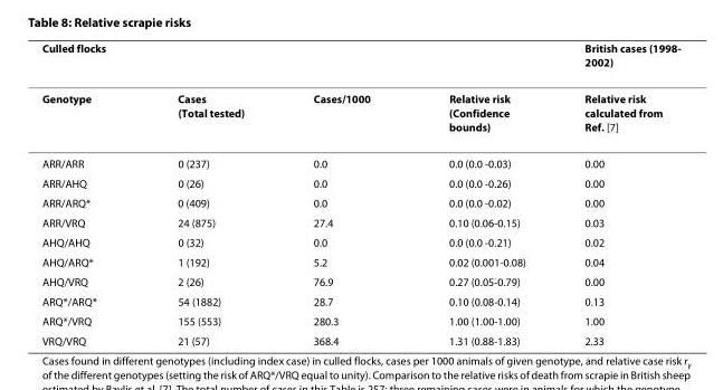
<table><thead><tr><td colspan="4">Culled flocks</td><td rowspan="2">British cases (1998- 2002) Relative risk calculated from Ref. [7]</td></tr><tr><td>Genotype</td><td>Cases (Total tested)</td><td>Cases/1000</td><td>Relative risk (Confidence bounds)</td></tr></thead><tbody><tr><td>ARR/ARR</td><td>0 (237)</td><td>0.0</td><td>0.0 (0.0 -0.03)</td><td>0.00</td></tr><tr><td>ARR/AHQ</td><td>0 (26)</td><td>0.0</td><td>0.0 (0.0 -0.26)</td><td>0.00</td></tr><tr><td>ARR/ARQ*</td><td>0 (409)</td><td>0.0</td><td>0.0 (0.0 -0.02)</td><td>0.00</td></tr><tr><td>ARR/VRQ</td><td>24 (875)</td><td>27.4</td><td>0.10 (0.06-0.15)</td><td>0.03</td></tr><tr><td>AHQ/AHQ</td><td>0 (32)</td><td>0.0</td><td>0.0 (0.0 -0.21)</td><td>0.02</td></tr><tr><td>AHQ/ARQ*</td><td>1 (192)</td><td>5.2</td><td>0.02 (0.001-0.08)</td><td>0.04</td></tr><tr><td>AHQ/VRQ</td><td>2 (26)</td><td>76.9</td><td>0.27 (0.05-0.79)</td><td>0.00</td></tr><tr><td>ARQ*/ARQ*</td><td>54 (1882)</td><td>28.7</td><td>0.10 (0.08-0.14)</td><td>0.13</td></tr><tr><td>ARQ*/VRQ</td><td>155 (553)</td><td>280.3</td><td>1.00 (1.00-1.00)</td><td>1.00</td></tr><tr><td>VRQ/VRQ</td><td>21 (57)</td><td>368.4</td><td>1.31 (0.88-1.83)</td><td>2.33</td></tr></tbody></table>